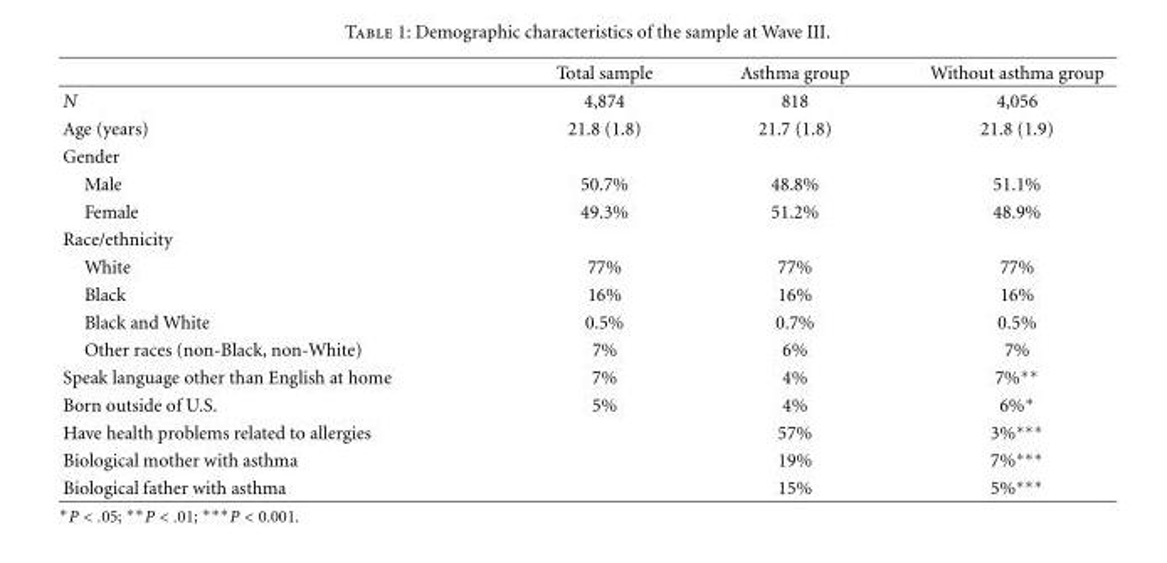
<table><thead><tr><td></td><td>Total sample</td><td>Asthma group</td><td>Without asthma group</td></tr></thead><tbody><tr><td>N</td><td>4,874</td><td>818</td><td>4,056</td></tr><tr><td>Age (years)</td><td>21.8 (1.8)</td><td>21.7 (1.8)</td><td>21.8 (1.9)</td></tr><tr><td colspan="4">Gender</td></tr><tr><td>Male</td><td>50.7%</td><td>48.8%</td><td>51.1%</td></tr><tr><td>Female</td><td>49.3%</td><td>51.2%</td><td>48.9%</td></tr><tr><td colspan="4">Race/ethnicity</td></tr><tr><td>White</td><td>77%</td><td>77%</td><td>77%</td></tr><tr><td>Black</td><td>16%</td><td>16%</td><td>16%</td></tr><tr><td>Black and White</td><td>0.5%</td><td>0.7%</td><td>0.5%</td></tr><tr><td>Other races (non-Black, non-White)</td><td>7%</td><td>6%</td><td>7%</td></tr><tr><td>Speak language other than English at home</td><td>7%</td><td>4%</td><td>7%∗∗</td></tr><tr><td>Born outside of U.S.</td><td>5%</td><td>4%</td><td>6%∗</td></tr><tr><td>Have health problems related to allergies</td><td></td><td>57%</td><td>3%∗∗∗</td></tr><tr><td>Biological mother with asthma</td><td></td><td>19%</td><td>7%∗∗∗</td></tr><tr><td>Biological father with asthma</td><td></td><td>15%</td><td>5%∗∗∗</td></tr></tbody></table>